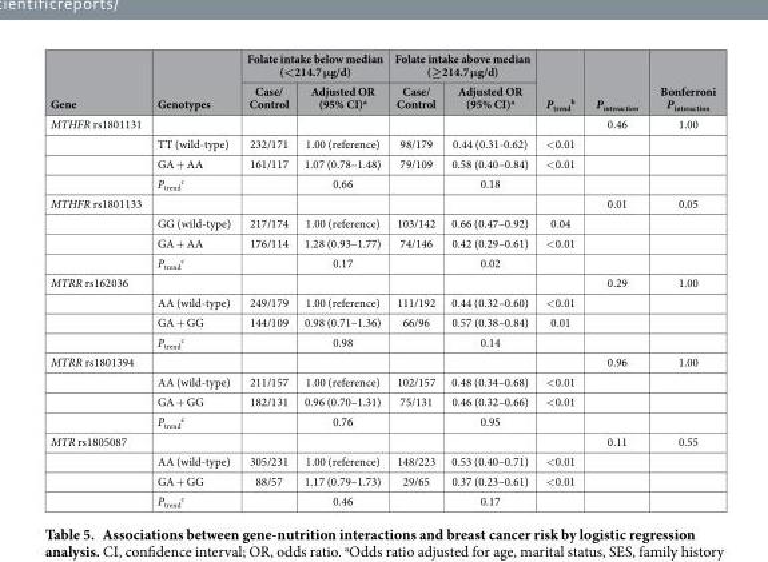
<table><thead><tr><td rowspan="2">Gene</td><td rowspan="2">Genotypes</td><td colspan="2">Folate intake below median (&lt;214.7 μg/d)</td><td colspan="2">Folate intake above median (≥214.7 μg/d)</td><td rowspan="2">P<sub>trend</sub> <sup>b</sup></td><td rowspan="2">P<sub>interaction</sub></td><td rowspan="2">Bonferroni P<sub>interaction</sub></td></tr><tr><td>Case/ Control</td><td>Adjusted OR (95% CI)<sup>a</sup></td><td>Case/ Control</td><td>Adjusted OR (95% CI)<sup>a</sup></td></tr></thead><tbody><tr><td rowspan="4">MTHFR rs1801131</td><td></td><td></td><td></td><td></td><td></td><td></td><td>0.46</td><td>1.00</td></tr><tr><td>TT (wild-type)</td><td>232/171</td><td>1.00 (reference)</td><td>98/179</td><td>0.44 (0.31-0.62)</td><td>&lt; 0.01</td><td></td><td></td></tr><tr><td>GA + AA</td><td>161/117</td><td>1.07 (0.78–1.48)</td><td>79/109</td><td>0.58 (0.40–0.84)</td><td>&lt; 0.01</td><td></td><td></td></tr><tr><td>P<sub>trend</sub> <sup>c</sup></td><td></td><td>0.66</td><td></td><td>0.18</td><td></td><td></td><td></td></tr><tr><td rowspan="4">MTHFR rs1801133</td><td></td><td></td><td></td><td></td><td></td><td></td><td>0.01</td><td>0.05</td></tr><tr><td>GG (wild-type)</td><td>217/174</td><td>1.00 (reference)</td><td>103/142</td><td>0.66 (0.47–0.92)</td><td>0.04</td><td></td><td></td></tr><tr><td>GA + AA</td><td>176/114</td><td>1.28 (0.93–1.77)</td><td>74/146</td><td>0.42 (0.29–0.61)</td><td>&lt; 0.01</td><td></td><td></td></tr><tr><td>P<sub>trend</sub> <sup>c</sup></td><td></td><td>0.17</td><td></td><td>0.02</td><td></td><td></td><td></td></tr><tr><td rowspan="4">MTRR rs162036</td><td></td><td></td><td></td><td></td><td></td><td></td><td>0.29</td><td>1.00</td></tr><tr><td>AA (wild-type)</td><td>249/179</td><td>1.00 (reference)</td><td>111/192</td><td>0.44 (0.32–0.60)</td><td>&lt; 0.01</td><td></td><td></td></tr><tr><td>GA + GG</td><td>144/109</td><td>0.98 (0.71–1.36)</td><td>66/96</td><td>0.57 (0.38–0.84)</td><td>0.01</td><td></td><td></td></tr><tr><td>P<sub>trend</sub> <sup>c</sup></td><td></td><td>0.98</td><td></td><td>0.14</td><td></td><td></td><td></td></tr><tr><td rowspan="4">MTRR rs1801394</td><td></td><td></td><td></td><td></td><td></td><td></td><td>0.96</td><td>1.00</td></tr><tr><td>AA (wild-type)</td><td>211/157</td><td>1.00 (reference)</td><td>102/157</td><td>0.48 (0.34–0.68)</td><td>&lt; 0.01</td><td></td><td></td></tr><tr><td>GA + GG</td><td>182/131</td><td>0.96 (0.70–1.31)</td><td>75/131</td><td>0.46 (0.32–0.66)</td><td>&lt; 0.01</td><td></td><td></td></tr><tr><td>P<sub>trend</sub> <sup>c</sup></td><td></td><td>0.76</td><td></td><td>0.95</td><td></td><td></td><td></td></tr><tr><td rowspan="4">MTR rs1805087</td><td></td><td></td><td></td><td></td><td></td><td></td><td>0.11</td><td>0.55</td></tr><tr><td>AA (wild-type)</td><td>305/231</td><td>1.00 (reference)</td><td>148/223</td><td>0.53 (0.40–0.71)</td><td>&lt; 0.01</td><td></td><td></td></tr><tr><td>GA + GG</td><td>88/57</td><td>1.17 (0.79–1.73)</td><td>29/65</td><td>0.37 (0.23–0.61)</td><td>&lt; 0.01</td><td></td><td></td></tr><tr><td>P<sub>trend</sub> <sup>c</sup></td><td></td><td>0.46</td><td></td><td>0.17</td><td></td><td></td><td></td></tr></tbody></table>